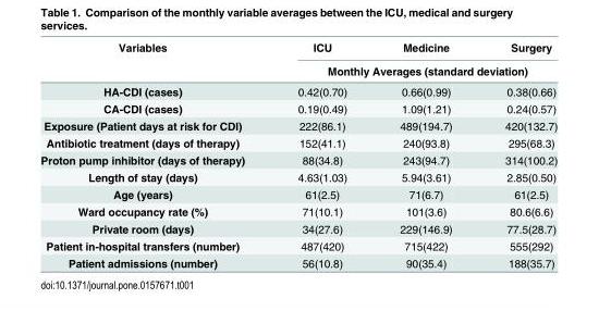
<table><thead><tr><td rowspan="2">Variables</td><td>ICU</td><td>Medicine</td><td>Surgery</td></tr><tr><td colspan="3">Monthly Averages (standard deviation)</td></tr></thead><tbody><tr><td>HA-CDI (cases)</td><td>0.42(0.70)</td><td>0.66(0.99)</td><td>0.38(0.66)</td></tr><tr><td>CA-CDI (cases)</td><td>0.19(0.49)</td><td>1.09(1.21)</td><td>0.24(0.57)</td></tr><tr><td>Exposure (Patient days at risk for CDI)</td><td>222(86.1)</td><td>489(194.7)</td><td>420(132.7)</td></tr><tr><td>Antibiotic treatment (days of therapy)</td><td>152(41.1)</td><td>240(93.8)</td><td>295(68.3)</td></tr><tr><td>Proton pump inhibitor (days of therapy)</td><td>88(34.8)</td><td>243(94.7)</td><td>314(100.2)</td></tr><tr><td>Length of stay (days)</td><td>4.63(1.03)</td><td>5.94(3.61)</td><td>2.85(0.50)</td></tr><tr><td>Age (years)</td><td>61(2.5)</td><td>71(6.7)</td><td>61(2.5)</td></tr><tr><td>Ward occupancy rate (%)</td><td>71(10.1)</td><td>101(3.6)</td><td>80.6(6.6)</td></tr><tr><td>Private room (days)</td><td>34(27.6)</td><td>229(146.9)</td><td>77.5(28.7)</td></tr><tr><td>Patient in-hospital transfers (number)</td><td>487(420)</td><td>715(422)</td><td>555(292)</td></tr><tr><td>Patient admissions (number)</td><td>56(10.8)</td><td>90(35.4)</td><td>188(35.7)</td></tr></tbody></table>